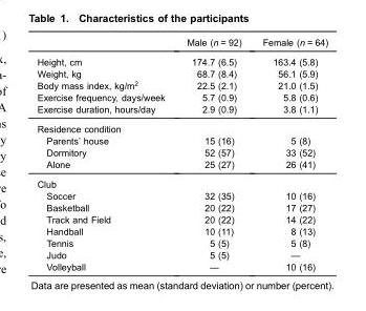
<table><thead><tr><td></td><td>Male (n = 92)</td><td>Female (n = 64)</td></tr></thead><tbody><tr><td>Height, cm</td><td>174.7 (6.5)</td><td>163.4 (5.8)</td></tr><tr><td>Weight, kg</td><td>68.7 (8.4)</td><td>56.1 (5.9)</td></tr><tr><td>Body mass index, kg/m<sup>2</sup></td><td>22.5 (2.1)</td><td>21.0 (1.5)</td></tr><tr><td>Exercise frequency, days/week</td><td>5.7 (0.9)</td><td>5.8 (0.6)</td></tr><tr><td>Exercise duration, hours/day</td><td>2.9 (0.9)</td><td>3.8 (1.1)</td></tr><tr><td colspan="3">Residence condition</td></tr><tr><td>Parents’ house</td><td>15 (16)</td><td>5 (8)</td></tr><tr><td>Dormitory</td><td>52 (57)</td><td>33 (52)</td></tr><tr><td>Alone</td><td>25 (27)</td><td>26 (41)</td></tr><tr><td colspan="3">Club</td></tr><tr><td>Soccer</td><td>32 (35)</td><td>10 (16)</td></tr><tr><td>Basketball</td><td>20 (22)</td><td>17 (27)</td></tr><tr><td>Track and Field</td><td>20 (22)</td><td>14 (22)</td></tr><tr><td>Handball</td><td>10 (11)</td><td>8 (13)</td></tr><tr><td>Tennis</td><td>5 (5)</td><td>5 (8)</td></tr><tr><td>Judo</td><td>5 (5)</td><td>—</td></tr><tr><td>Volleyball</td><td>—</td><td>10 (16)</td></tr></tbody></table>